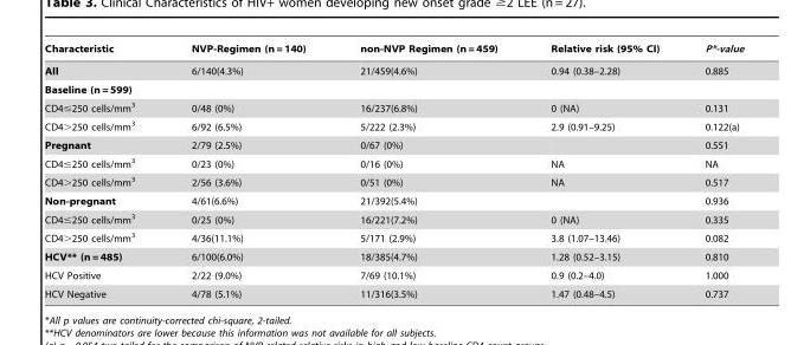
<table><thead><tr><td>Characteristic</td><td>NVP-Regimen (n = 140)</td><td>non-NVP Regimen (n = 459)</td><td>Relative risk (95% CI)</td><td>P*-value</td></tr></thead><tbody><tr><td>All</td><td>6/140(4.3%)</td><td>21/459(4.6%)</td><td>0.94 (0.38–2.28)</td><td>0.885</td></tr><tr><td colspan="5">Baseline (n = 599)</td></tr><tr><td>CD4≤250 cells/mm<sup>3</sup></td><td>0/48 (0%)</td><td>16/237(6.8%)</td><td>0 (NA)</td><td>0.131</td></tr><tr><td>CD4&gt;250 cells/mm<sup>3</sup></td><td>6/92 (6.5%)</td><td>5/222 (2.3%)</td><td>2.9 (0.91–9.25)</td><td>0.122(a)</td></tr><tr><td>Pregnant</td><td>2/79 (2.5%)</td><td>0/67 (0%)</td><td></td><td>0.551</td></tr><tr><td>CD4≤250 cells/mm<sup>3</sup></td><td>0/23 (0%)</td><td>0/16 (0%)</td><td>NA</td><td>NA</td></tr><tr><td>CD4&gt;250 cells/mm<sup>3</sup></td><td>2/56 (3.6%)</td><td>0/51 (0%)</td><td>NA</td><td>0.517</td></tr><tr><td>Non-pregnant</td><td>4/61(6.6%)</td><td>21/392(5.4%)</td><td></td><td>0.936</td></tr><tr><td>CD4≤250 cells/mm<sup>3</sup></td><td>0/25 (0%)</td><td>16/221(7.2%)</td><td>0 (NA)</td><td>0.335</td></tr><tr><td>CD4&gt;250 cells/mm<sup>3</sup></td><td>4/36(11.1%)</td><td>5/171 (2.9%)</td><td>3.8 (1.07–13.46)</td><td>0.082</td></tr><tr><td>HCV** (n = 485)</td><td>6/100(6.0%)</td><td>18/385(4.7%)</td><td>1.28 (0.52–3.15)</td><td>0.810</td></tr><tr><td>HCV Positive</td><td>2/22 (9.0%)</td><td>7/69 (10.1%)</td><td>0.9 (0.2–4.0)</td><td>1.000</td></tr><tr><td>HCV Negative</td><td>4/78 (5.1%)</td><td>11/316(3.5%)</td><td>1.47 (0.48–4.5)</td><td>0.737</td></tr></tbody></table>